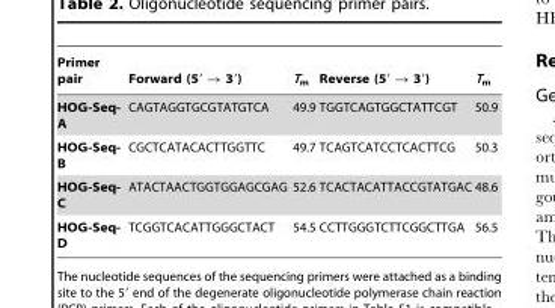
<table><thead><tr><td>Primer pair</td><td>Forward (5′ → 3′)</td><td>T<sub>m</sub></td><td>Reverse (5′ → 3′)</td><td>T<sub>m</sub></td></tr></thead><tbody><tr><td>HOG-Seq- A</td><td>CAGTAGGTGCGTATGTCA</td><td>49.9</td><td>TGGTCAGTGGCTATTCGT</td><td>50.9</td></tr><tr><td>HOG-Seq- B</td><td>CGCTCATACACTTGGTTC</td><td>49.7</td><td>TCAGTCATCCTCACTTCG</td><td>50.3</td></tr><tr><td>HOG-Seq- C</td><td>ATACTAACTGGTGGAGCGAG</td><td>52.6</td><td>TCACTACATTACCGTATGAC</td><td>48.6</td></tr><tr><td>HOG-Seq- D</td><td>TCGGTCACATTGGGCTACT</td><td>54.5</td><td>CCTTGGGTCTTCGGCTTGA</td><td>56.5</td></tr></tbody></table>